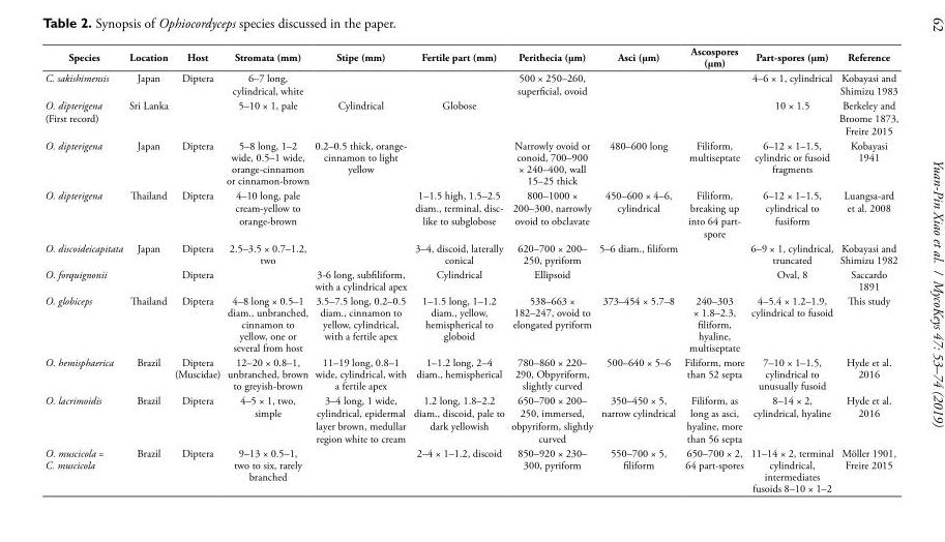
<table><thead><tr><td>Species</td><td>Location</td><td>Host</td><td>Stromata (mm)</td><td>Stipe (mm)</td><td>Fertile part (mm)</td><td>Perithecia (μm)</td><td>Asci (μm)</td><td>Ascospores (μm)</td><td>Part-spores (μm)</td><td>Reference</td></tr></thead><tbody><tr><td>C. sakishimensis</td><td>Japan</td><td>Diptera</td><td>6–7 long, cylindrical, white</td><td></td><td></td><td>500 × 250–260, superficial, ovoid</td><td></td><td></td><td>4–6 × 1, cylindrical</td><td>Kobayasi and Shimizu 1983</td></tr><tr><td>O. dipterigena (First record)</td><td>Sri Lanka</td><td></td><td>5–10 × 1, pale</td><td>Cylindrical</td><td>Globose</td><td></td><td></td><td></td><td>10 × 1.5</td><td>Berkeley and Broome 1873, Freire 2015</td></tr><tr><td>O. dipterigena</td><td>Japan</td><td>Diptera</td><td>5–8 long, 1–2 wide, 0.5–1 wide, orange-cinnamon or cinnamon-brown</td><td>0.2–0.5 thick, orange- cinnamon to light yellow</td><td></td><td>Narrowly ovoid or conoid, 700–900 × 240–400, wall 15–25 thick</td><td>480–600 long</td><td>Filiform, multiseptate</td><td>6–12 × 1–1.5, cylindric or fusoid fragments</td><td>Kobayasi 1941</td></tr><tr><td>O. dipterigena</td><td>Thailand</td><td>Diptera</td><td>4–10 long, pale cream-yellow to orange-brown</td><td></td><td>1–1.5 high, 1.5–2.5 diam., terminal, disc- like to subglobose</td><td>800–1000 × 200–300, narrowly ovoid to obclavate</td><td>450–600 × 4–6, cylindrical</td><td>Filiform, breaking up into 64 part- spore</td><td>6–12 × 1–1.5, cylindrical to fusiform</td><td>Luangsa-ard et al. 2008</td></tr><tr><td>O. discoideicapitata</td><td>Japan</td><td>Diptera</td><td>2.5–3.5 × 0.7–1.2, two</td><td></td><td>3–4, discoid, laterally conical</td><td>620–700 × 200– 250, pyriform</td><td>5–6 diam., filiform</td><td></td><td>6–9 × 1, cylindrical, truncated</td><td>Kobayasi and Shimizu 1982</td></tr><tr><td>O. forquignonii</td><td></td><td>Diptera</td><td></td><td>3-6 long, subfiliform, with a cylindrical apex</td><td>Cylindrical</td><td>Ellipsoid</td><td></td><td></td><td>Oval, 8</td><td>Saccardo 1891</td></tr><tr><td>O. globiceps</td><td>Thailand</td><td>Diptera</td><td>4–8 long × 0.5–1 diam., unbranched, cinnamon to yellow, one or several from host</td><td>3.5–7.5 long, 0.2–0.5 diam., cinnamon to yellow, cylindrical, with a fertile apex</td><td>1–1.5 long, 1–1.2 diam., yellow, hemispherical to globoid</td><td>538–663 × 182–247, ovoid to elongated pyriform</td><td>373–454 × 5.7–8</td><td>240–303 × 1.8–2.3, filiform, hyaline, multiseptate</td><td>4–5.4 × 1.2–1.9, cylindrical to fusoid</td><td>This study</td></tr><tr><td>O. hemisphaerica</td><td>Brazil</td><td>Diptera (Muscidae)</td><td>12–20 × 0.8–1, unbranched, brown to greyish-brown</td><td>11–19 long, 0.8–1 wide, cylindrical, with a fertile apex</td><td>1–1.2 long, 2–4 diam., hemispherical</td><td>780–860 × 220– 290, Obpyriform, slightly curved</td><td>500–640 × 5–6</td><td>Filiform, more than 52 septa</td><td>7–10 × 1–1.5, cylindrical to unusually fusoid</td><td>Hyde et al. 2016</td></tr><tr><td>O. lacrimoidis</td><td>Brazil</td><td>Diptera</td><td>4–5 × 1, two, simple</td><td>3–4 long, 1 wide, cylindrical, epidermal layer brown, medullar region white to cream</td><td>1.2 long, 1.8–2.2 diam., discoid, pale to dark yellowish</td><td>650–700 × 200– 250, immersed, obpyriform, slightly curved</td><td>350–450 × 5, narrow cylindrical</td><td>Filiform, as long as asci, hyaline, more than 56 septa</td><td>8–14 × 2, cylindrical, hyaline</td><td>Hyde et al. 2016</td></tr><tr><td>O. muscicola = C. muscicola</td><td>Brazil</td><td>Diptera</td><td>9–13 × 0.5–1, two to six, rarely branched</td><td></td><td>2–4 × 1–1.2, discoid</td><td>850–920 × 230– 300, pyriform</td><td>550–700 × 5, filiform</td><td>650–700 × 2, 64 part-spores</td><td>11–14 × 2, terminal cylindrical, intermediates fusoids 8–10 × 1–2</td><td>Möller 1901, Freire 2015</td></tr></tbody></table>